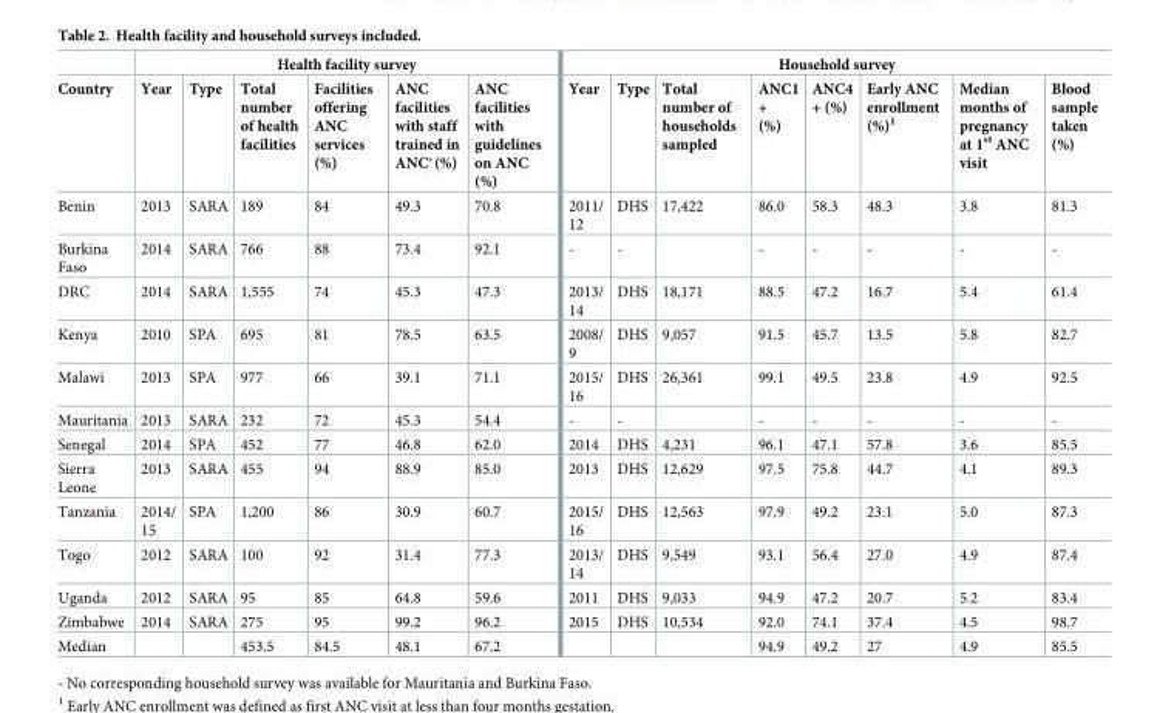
<table><thead><tr><td rowspan="2">Country</td><td colspan="6">Health facility survey</td><td colspan="8">Household survey</td></tr><tr><td>Year</td><td>Type</td><td>Total number of health facilities</td><td>Facilities offering ANC services (%)</td><td>ANC facilities with staff trained in ANC*(%)</td><td>ANC facilities with guidelines on ANC (%)</td><td>Year</td><td>Type</td><td>Total number of households sampled</td><td>ANC1 + (%)</td><td>ANC4 + (%)</td><td>Early ANC enrollment (%)<sup>1</sup></td><td>Median months of pregnancy at 1<sup>st</sup> ANC visit</td><td>Blood sample taken (%)</td></tr></thead><tbody><tr><td>Benin</td><td>2013</td><td>SARA</td><td>189</td><td>84</td><td>49.3</td><td>70.8</td><td>2011/ 12</td><td>DHS</td><td>17,422</td><td>86.0</td><td>58.3</td><td>48.3</td><td>3.8</td><td>81.3</td></tr><tr><td>Burkina Faso</td><td>2014</td><td>SARA</td><td>766</td><td>88</td><td>73.4</td><td>92.1</td><td>-</td><td>-</td><td></td><td>-</td><td>-</td><td>-</td><td>-</td><td>-</td></tr><tr><td>DRC</td><td>2014</td><td>SARA</td><td>1,555</td><td>74</td><td>45.3</td><td>47.3</td><td>2013/ 14</td><td>DHS</td><td>18,171</td><td>88.5</td><td>47.2</td><td>16.7</td><td>5.4</td><td>61.4</td></tr><tr><td>Kenya</td><td>2010</td><td>SPA</td><td>695</td><td>81</td><td>78.5</td><td>63.5</td><td>2008/ 9</td><td>DHS</td><td>9,057</td><td>91.5</td><td>45.7</td><td>13.5</td><td>5.8</td><td>82.7</td></tr><tr><td>Malawi</td><td>2013</td><td>SPA</td><td>977</td><td>66</td><td>39.1</td><td>71.1</td><td>2015/ 16</td><td>DHS</td><td>26,361</td><td>99.1</td><td>49.5</td><td>23.8</td><td>4.9</td><td>92.5</td></tr><tr><td>Mauritania</td><td>2013</td><td>SARA</td><td>232</td><td>72</td><td>45.3</td><td>54.4</td><td>-</td><td>-</td><td></td><td>-</td><td>-</td><td>-</td><td>-</td><td>-</td></tr><tr><td>Senegal</td><td>2014</td><td>SPA</td><td>452</td><td>77</td><td>46.8</td><td>62.0</td><td>2014</td><td>DHS</td><td>4,231</td><td>96.1</td><td>47.1</td><td>57.8</td><td>3.6</td><td>85.5</td></tr><tr><td>Sierra Leone</td><td>2013</td><td>SARA</td><td>455</td><td>94</td><td>88.9</td><td>85.0</td><td>2013</td><td>DHS</td><td>12,629</td><td>97.5</td><td>75.8</td><td>44.7</td><td>4.1</td><td>89.3</td></tr><tr><td>Tanzania</td><td>2014/ 15</td><td>SPA</td><td>1,200</td><td>86</td><td>30.9</td><td>60.7</td><td>2015/ 16</td><td>DHS</td><td>12,563</td><td>97.9</td><td>49.2</td><td>23.1</td><td>5.0</td><td>87.3</td></tr><tr><td>Togo</td><td>2012</td><td>SARA</td><td>100</td><td>92</td><td>31.4</td><td>77.3</td><td>2013/ 14</td><td>DHS</td><td>9,549</td><td>93.1</td><td>56.4</td><td>27.0</td><td>4.9</td><td>87.4</td></tr><tr><td>Uganda</td><td>2012</td><td>SARA</td><td>95</td><td>85</td><td>64.8</td><td>59.6</td><td>2011</td><td>DHS</td><td>9,033</td><td>94.9</td><td>47.2</td><td>20.7</td><td>5.2</td><td>83.4</td></tr><tr><td>Zimbabwe</td><td>2014</td><td>SARA</td><td>275</td><td>95</td><td>99.2</td><td>96.2</td><td>2015</td><td>DHS</td><td>10,534</td><td>92.0</td><td>74.1</td><td>37.4</td><td>4.5</td><td>98.7</td></tr><tr><td>Median</td><td></td><td></td><td>453.5</td><td>84.5</td><td>48.1</td><td>67.2</td><td></td><td></td><td></td><td>94.9</td><td>49.2</td><td>27</td><td>4.9</td><td>85.5</td></tr></tbody></table>